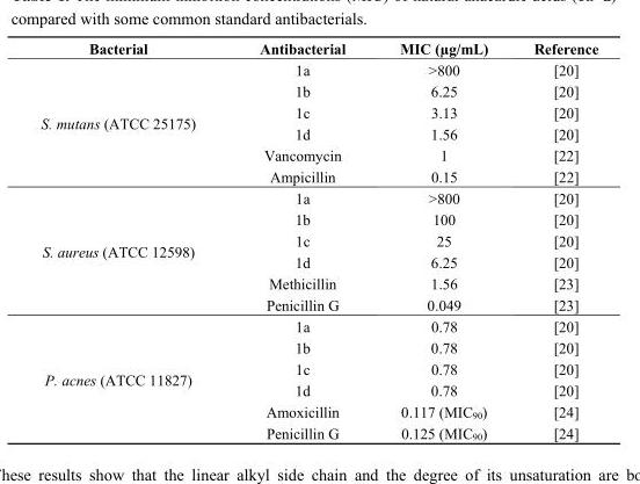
<table><thead><tr><td>Bacterial</td><td>Antibacterial</td><td>MIC (µg/mL)</td><td>Reference</td></tr></thead><tbody><tr><td rowspan="6">S. mutans (ATCC 25175)</td><td>1a</td><td>˃800</td><td>[20]</td></tr><tr><td>1b</td><td>6.25</td><td>[20]</td></tr><tr><td>1c</td><td>3.13</td><td>[20]</td></tr><tr><td>1d</td><td>1.56</td><td>[20]</td></tr><tr><td>Vancomycin</td><td>1</td><td>[22]</td></tr><tr><td>Ampicillin</td><td>0.15</td><td>[22]</td></tr><tr><td rowspan="6">S. aureus (ATCC 12598)</td><td>1a</td><td>˃800</td><td>[20]</td></tr><tr><td>1b</td><td>100</td><td>[20]</td></tr><tr><td>1c</td><td>25</td><td>[20]</td></tr><tr><td>1d</td><td>6.25</td><td>[20]</td></tr><tr><td>Methicillin</td><td>1.56</td><td>[23]</td></tr><tr><td>Penicillin G</td><td>0.049</td><td>[23]</td></tr><tr><td rowspan="6">P. acnes (ATCC 11827)</td><td>1a</td><td>0.78</td><td>[20]</td></tr><tr><td>1b</td><td>0.78</td><td>[20]</td></tr><tr><td>1c</td><td>0.78</td><td>[20]</td></tr><tr><td>1d</td><td>0.78</td><td>[20]</td></tr><tr><td>Amoxicillin</td><td>0.117 (MIC<sub>90</sub>)</td><td>[24]</td></tr><tr><td>Penicillin G</td><td>0.125 (MIC<sub>90</sub>)</td><td>[24]</td></tr></tbody></table>